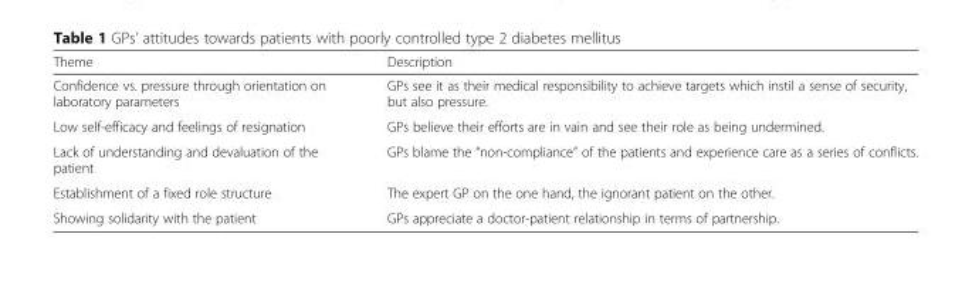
<table><thead><tr><td>Theme</td><td>Description</td></tr></thead><tbody><tr><td>Confidence vs. pressure through orientation on laboratory parameters</td><td>GPs see it as their medical responsibility to achieve targets which instil a sense of security, but also pressure.</td></tr><tr><td>Low self-efficacy and feelings of resignation</td><td>GPs believe their efforts are in vain and see their role as being undermined.</td></tr><tr><td>Lack of understanding and devaluation of the patient</td><td>GPs blame the “non-compliance” of the patients and experience care as a series of conflicts.</td></tr><tr><td>Establishment of a fixed role structure</td><td>The expert GP on the one hand, the ignorant patient on the other.</td></tr><tr><td>Showing solidarity with the patient</td><td>GPs appreciate a doctor-patient relationship in terms of partnership.</td></tr></tbody></table>